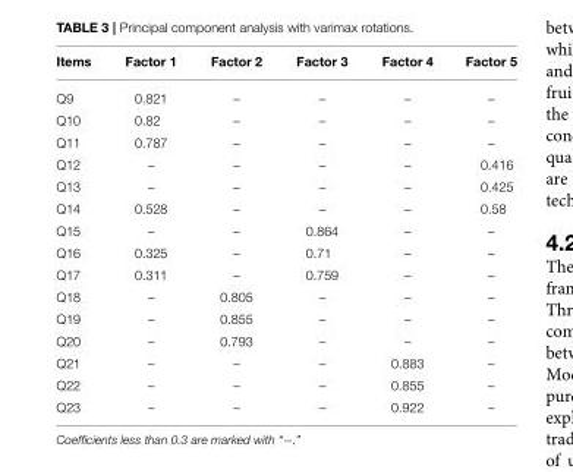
<table><thead><tr><td>Items</td><td>Factor 1</td><td>Factor 2</td><td>Factor 3</td><td>Factor 4</td><td>Factor 5</td></tr></thead><tbody><tr><td>Q9</td><td>0.821</td><td>–</td><td>–</td><td>–</td><td>–</td></tr><tr><td>Q10</td><td>0.82</td><td>–</td><td>–</td><td>–</td><td>–</td></tr><tr><td>Q11</td><td>0.787</td><td>–</td><td>–</td><td>–</td><td>–</td></tr><tr><td>Q12</td><td>–</td><td>–</td><td>–</td><td>–</td><td>0.416</td></tr><tr><td>Q13</td><td>–</td><td>–</td><td>–</td><td>–</td><td>0.425</td></tr><tr><td>Q14</td><td>0.528</td><td>–</td><td>–</td><td>–</td><td>0.58</td></tr><tr><td>Q15</td><td>–</td><td>–</td><td>0.864</td><td>–</td><td>–</td></tr><tr><td>Q16</td><td>0.325</td><td>–</td><td>0.71</td><td>–</td><td>–</td></tr><tr><td>Q17</td><td>0.311</td><td>–</td><td>0.759</td><td>–</td><td>–</td></tr><tr><td>Q18</td><td>–</td><td>0.805</td><td>–</td><td>–</td><td>–</td></tr><tr><td>Q19</td><td>–</td><td>0.855</td><td>–</td><td>–</td><td>–</td></tr><tr><td>Q20</td><td>–</td><td>0.793</td><td>–</td><td>–</td><td>–</td></tr><tr><td>Q21</td><td>–</td><td>–</td><td>–</td><td>0.883</td><td>–</td></tr><tr><td>Q22</td><td>–</td><td>–</td><td>–</td><td>0.855</td><td>–</td></tr><tr><td>Q23</td><td>–</td><td>–</td><td>–</td><td>0.922</td><td>–</td></tr></tbody></table>